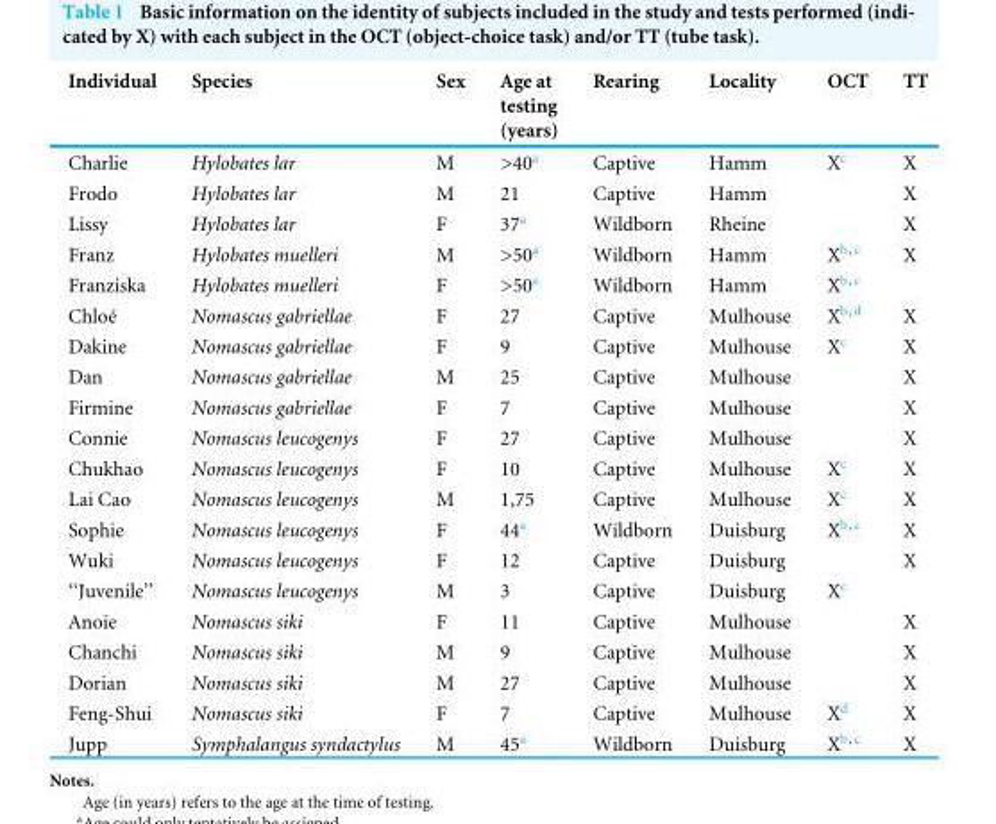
<table><thead><tr><td>Individual</td><td>Species</td><td>Sex</td><td>Age at testing (years)</td><td>Rearing</td><td>Locality</td><td>OCT</td><td>TT</td></tr></thead><tbody><tr><td>Charlie</td><td>Hylobates lar</td><td>M</td><td>&gt;40<sup>a</sup></td><td>Captive</td><td>Hamm</td><td>X<sup>c</sup></td><td>X</td></tr><tr><td>Frodo</td><td>Hylobates lar</td><td>M</td><td>21</td><td>Captive</td><td>Hamm</td><td></td><td>X</td></tr><tr><td>Lissy</td><td>Hylobates lar</td><td>F</td><td>37<sup>a</sup></td><td>Wildborn</td><td>Rheine</td><td></td><td>X</td></tr><tr><td>Franz</td><td>Hylobates muelleri</td><td>M</td><td>&gt;50<sup>a</sup></td><td>Wildborn</td><td>Hamm</td><td>X<sup>b,c</sup></td><td>X</td></tr><tr><td>Franziska</td><td>Hylobates muelleri</td><td>F</td><td>&gt;50<sup>a</sup></td><td>Wildborn</td><td>Hamm</td><td>X<sup>b,c</sup></td><td></td></tr><tr><td>Chloé</td><td>Nomascus gabriellae</td><td>F</td><td>27</td><td>Captive</td><td>Mulhouse</td><td>X<sup>b,d</sup></td><td>X</td></tr><tr><td>Dakine</td><td>Nomascus gabriellae</td><td>F</td><td>9</td><td>Captive</td><td>Mulhouse</td><td>X<sup>c</sup></td><td>X</td></tr><tr><td>Dan</td><td>Nomascus gabriellae</td><td>M</td><td>25</td><td>Captive</td><td>Mulhouse</td><td></td><td>X</td></tr><tr><td>Firmine</td><td>Nomascus gabriellae</td><td>F</td><td>7</td><td>Captive</td><td>Mulhouse</td><td></td><td>X</td></tr><tr><td>Connie</td><td>Nomascus leucogenys</td><td>F</td><td>27</td><td>Captive</td><td>Mulhouse</td><td></td><td>X</td></tr><tr><td>Chukhao</td><td>Nomascus leucogenys</td><td>F</td><td>10</td><td>Captive</td><td>Mulhouse</td><td>X<sup>c</sup></td><td>X</td></tr><tr><td>Lai Cao</td><td>Nomascus leucogenys</td><td>M</td><td>1,75</td><td>Captive</td><td>Mulhouse</td><td>X<sup>c</sup></td><td>X</td></tr><tr><td>Sophie</td><td>Nomascus leucogenys</td><td>F</td><td>44<sup>a</sup></td><td>Wildborn</td><td>Duisburg</td><td>X<sup>b,c</sup></td><td>X</td></tr><tr><td>Wuki</td><td>Nomascus leucogenys</td><td>F</td><td>12</td><td>Captive</td><td>Duisburg</td><td></td><td>X</td></tr><tr><td>‘‘Juvenile’’</td><td>Nomascus leucogenys</td><td>M</td><td>3</td><td>Captive</td><td>Duisburg</td><td>X<sup>c</sup></td><td></td></tr><tr><td>Anoie</td><td>Nomascus siki</td><td>F</td><td>11</td><td>Captive</td><td>Mulhouse</td><td></td><td>X</td></tr><tr><td>Chanchi</td><td>Nomascus siki</td><td>M</td><td>9</td><td>Captive</td><td>Mulhouse</td><td></td><td>X</td></tr><tr><td>Dorian</td><td>Nomascus siki</td><td>M</td><td>27</td><td>Captive</td><td>Mulhouse</td><td></td><td>X</td></tr><tr><td>Feng-Shui</td><td>Nomascus siki</td><td>F</td><td>7</td><td>Captive</td><td>Mulhouse</td><td>X<sup>d</sup></td><td>X</td></tr><tr><td>Jupp</td><td>Symphalangus syndactylus</td><td>M</td><td>45<sup>a</sup></td><td>Wildborn</td><td>Duisburg</td><td>X<sup>b,c</sup></td><td>X</td></tr></tbody></table>